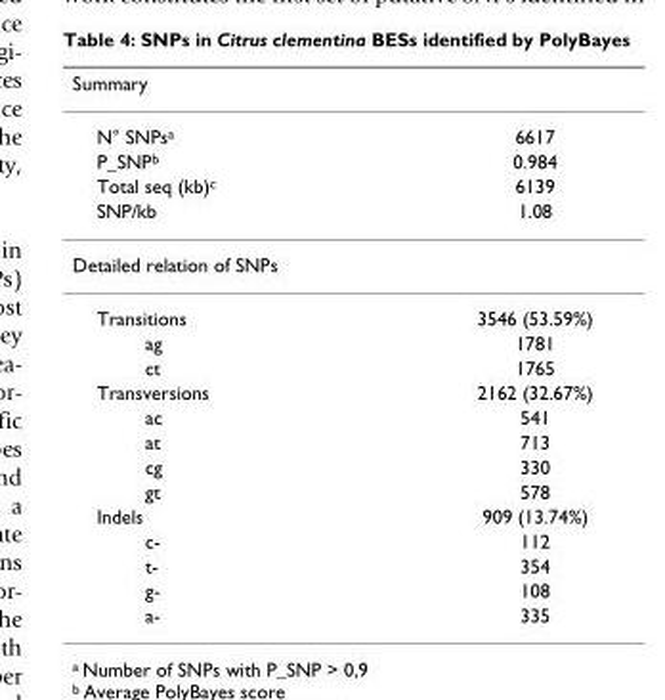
<table><thead><tr><td>Summary</td><td></td></tr></thead><tbody><tr><td>N° SNPs<sup>a</sup></td><td>6617</td></tr><tr><td>P_SNP<sup>b</sup></td><td>0.984</td></tr><tr><td>Total seq (kb)<sup>c</sup></td><td>6139</td></tr><tr><td>SNP/kb</td><td>1.08</td></tr><tr><td colspan="2">Detailed relation of SNPs</td></tr><tr><td>Transitions</td><td>3546 (53.59%)</td></tr><tr><td>ag</td><td>1781</td></tr><tr><td>ct</td><td>1765</td></tr><tr><td>Transversions</td><td>2162 (32.67%)</td></tr><tr><td>ac</td><td>541</td></tr><tr><td>at</td><td>713</td></tr><tr><td>cg</td><td>330</td></tr><tr><td>gt</td><td>578</td></tr><tr><td>Indels</td><td>909 (13.74%)</td></tr><tr><td>c-</td><td>112</td></tr><tr><td>t-</td><td>354</td></tr><tr><td>g-</td><td>108</td></tr><tr><td>a-</td><td>335</td></tr></tbody></table>